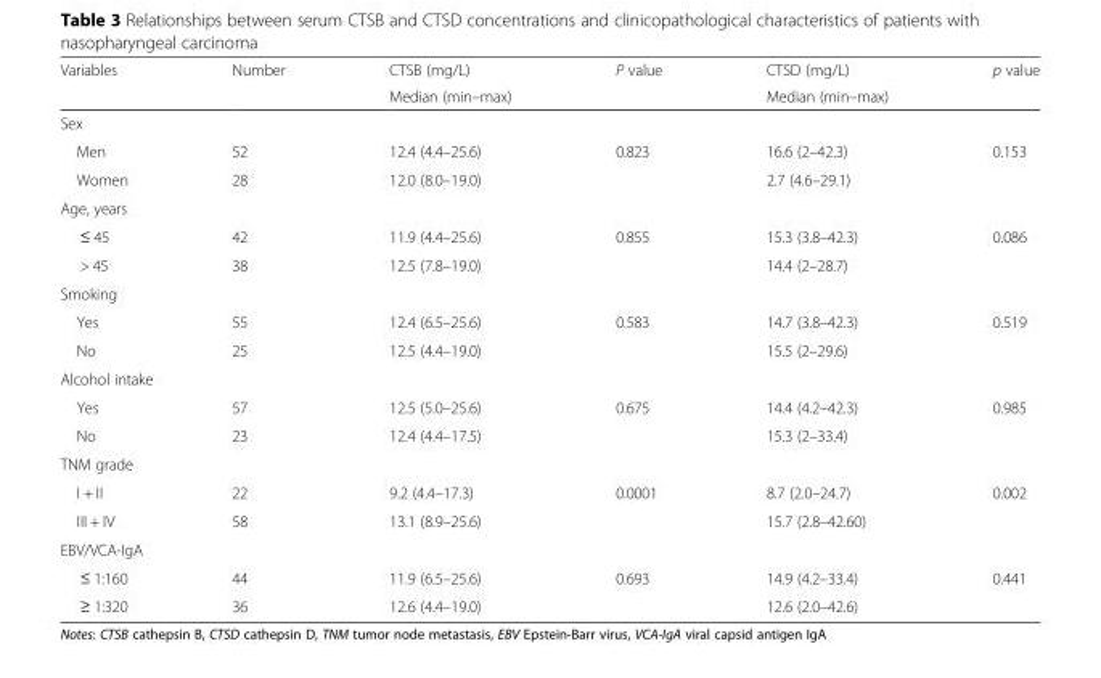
<table><thead><tr><td rowspan="2">Variables</td><td rowspan="2">Number</td><td rowspan="2">CTSB (mg/L) Median (min–max)</td><td rowspan="2">P value</td><td rowspan="2">CTSD (mg/L) Median (min–max)</td><td rowspan="2">p value</td></tr><tr></tr></thead><tbody><tr><td colspan="6">Sex</td></tr><tr><td>Men</td><td>52</td><td>12.4 (4.4–25.6)</td><td>0.823</td><td>16.6 (2–42.3)</td><td>0.153</td></tr><tr><td>Women</td><td>28</td><td>12.0 (8.0–19.0)</td><td></td><td>2.7 (4.6–29.1)</td><td></td></tr><tr><td colspan="6">Age, years</td></tr><tr><td>≤ 45</td><td>42</td><td>11.9 (4.4–25.6)</td><td>0.855</td><td>15.3 (3.8–42.3)</td><td>0.086</td></tr><tr><td>&gt; 45</td><td>38</td><td>12.5 (7.8–19.0)</td><td></td><td>14.4 (2–28.7)</td><td></td></tr><tr><td colspan="6">Smoking</td></tr><tr><td>Yes</td><td>55</td><td>12.4 (6.5–25.6)</td><td>0.583</td><td>14.7 (3.8–42.3)</td><td>0.519</td></tr><tr><td>No</td><td>25</td><td>12.5 (4.4–19.0)</td><td></td><td>15.5 (2–29.6)</td><td></td></tr><tr><td colspan="6">Alcohol intake</td></tr><tr><td>Yes</td><td>57</td><td>12.5 (5.0–25.6)</td><td>0.675</td><td>14.4 (4.2–42.3)</td><td>0.985</td></tr><tr><td>No</td><td>23</td><td>12.4 (4.4–17.5)</td><td></td><td>15.3 (2–33.4)</td><td></td></tr><tr><td colspan="6">TNM grade</td></tr><tr><td>I + II</td><td>22</td><td>9.2 (4.4–17.3)</td><td>0.0001</td><td>8.7 (2.0–24.7)</td><td>0.002</td></tr><tr><td>III + IV</td><td>58</td><td>13.1 (8.9–25.6)</td><td></td><td>15.7 (2.8–42.60)</td><td></td></tr><tr><td colspan="6">EBV/VCA-IgA</td></tr><tr><td>≤ 1:160</td><td>44</td><td>11.9 (6.5–25.6)</td><td>0.693</td><td>14.9 (4.2–33.4)</td><td>0.441</td></tr><tr><td>≥ 1:320</td><td>36</td><td>12.6 (4.4–19.0)</td><td></td><td>12.6 (2.0–42.6)</td><td></td></tr></tbody></table>